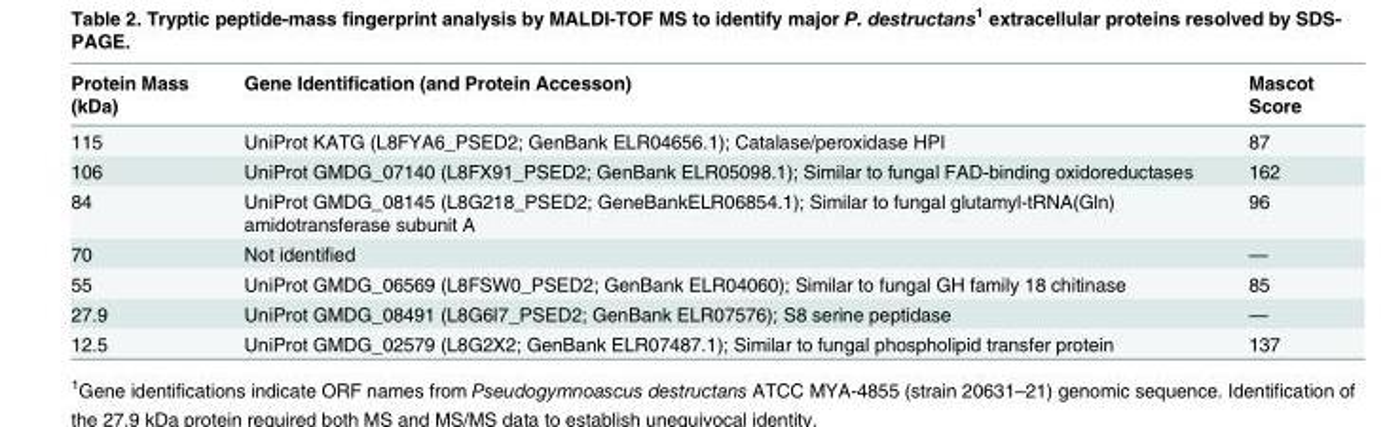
<table><thead><tr><td>Protein Mass (kDa)</td><td>Gene Identification (and Protein Accesson)</td><td>Mascot Score</td></tr></thead><tbody><tr><td>115</td><td>UniProt KATG (L8FYA6_PSED2; GenBank ELR04656.1); Catalase/peroxidase HPI</td><td>87</td></tr><tr><td>106</td><td>UniProt GMDG_07140 (L8FX91_PSED2; GenBank ELR05098.1); Similar to fungal FAD-binding oxidoreductases</td><td>162</td></tr><tr><td>84</td><td>UniProt GMDG_08145 (L8G218_PSED2; GeneBankELR06854.1); Similar to fungal glutamyl-tRNA(Gln) amidotransferase subunit A</td><td>96</td></tr><tr><td>70</td><td>Not identified</td><td>—</td></tr><tr><td>55</td><td>UniProt GMDG_06569 (L8FSW0_PSED2; GenBank ELR04060); Similar to fungal GH family 18 chitinase</td><td>85</td></tr><tr><td>27.9</td><td>UniProt GMDG_08491 (L8G6I7_PSED2; GenBank ELR07576); S8 serine peptidase</td><td>—</td></tr><tr><td>12.5</td><td>UniProt GMDG_02579 (L8G2X2; GenBank ELR07487.1); Similar to fungal phospholipid transfer protein</td><td>137</td></tr></tbody></table>